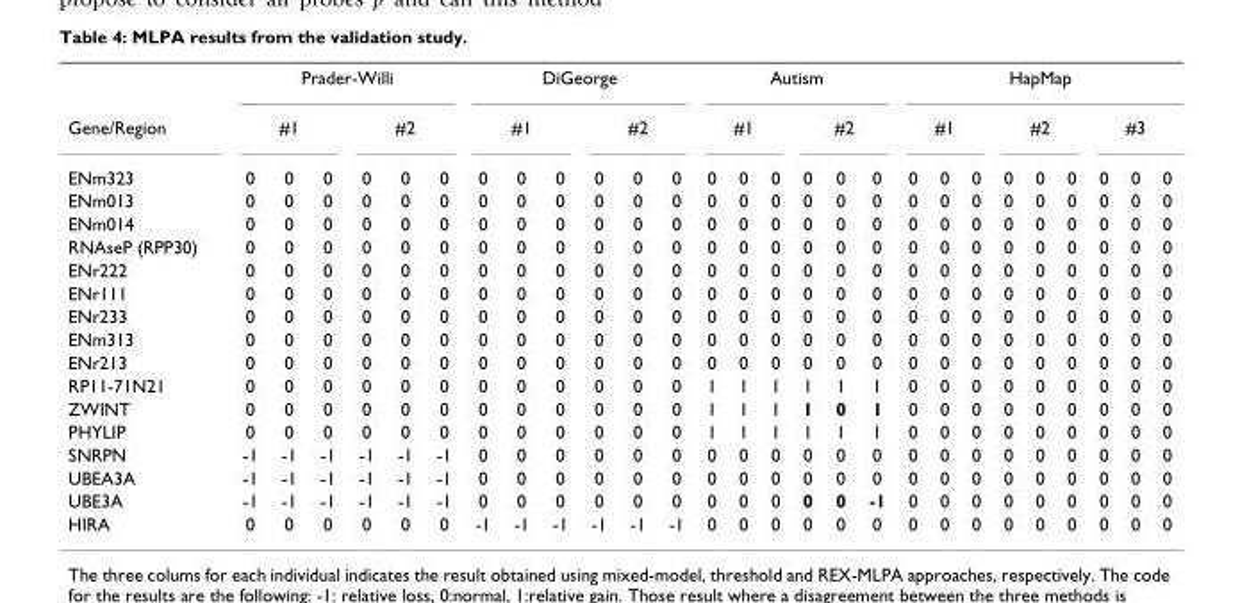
<table><thead><tr><td rowspan="3">Gene/Region ENm323</td><td colspan="6">Prader-Willi</td><td colspan="6">DiGeorge</td><td colspan="6">Autism</td><td colspan="9">HapMap</td></tr><tr><td colspan="3">#1</td><td colspan="3">#2</td><td colspan="3">#1</td><td colspan="3">#2</td><td colspan="3">#1</td><td colspan="3">#2</td><td colspan="3">#1</td><td colspan="3">#2</td><td colspan="3">#3</td></tr><tr><td>0</td><td>0</td><td>0</td><td>0</td><td>0</td><td>0</td><td>0</td><td>0</td><td>0</td><td>0</td><td>0</td><td>0</td><td>0</td><td>0</td><td>0</td><td>0</td><td>0</td><td>0</td><td>0</td><td>0</td><td>0</td><td>0</td><td>0</td><td>0</td><td>0</td><td>0</td><td>0</td></tr></thead><tbody><tr><td>ENm013</td><td>0</td><td>0</td><td>0</td><td>0</td><td>0</td><td>0</td><td>0</td><td>0</td><td>0</td><td>0</td><td>0</td><td>0</td><td>0</td><td>0</td><td>0</td><td>0</td><td>0</td><td>0</td><td>0</td><td>0</td><td>0</td><td>0</td><td>0</td><td>0</td><td>0</td><td>0</td><td>0</td></tr><tr><td>ENm014</td><td>0</td><td>0</td><td>0</td><td>0</td><td>0</td><td>0</td><td>0</td><td>0</td><td>0</td><td>0</td><td>0</td><td>0</td><td>0</td><td>0</td><td>0</td><td>0</td><td>0</td><td>0</td><td>0</td><td>0</td><td>0</td><td>0</td><td>0</td><td>0</td><td>0</td><td>0</td><td>0</td></tr><tr><td>RNAseP (RPP30)</td><td>0</td><td>0</td><td>0</td><td>0</td><td>0</td><td>0</td><td>0</td><td>0</td><td>0</td><td>0</td><td>0</td><td>0</td><td>0</td><td>0</td><td>0</td><td>0</td><td>0</td><td>0</td><td>0</td><td>0</td><td>0</td><td>0</td><td>0</td><td>0</td><td>0</td><td>0</td><td>0</td></tr><tr><td>ENr222</td><td>0</td><td>0</td><td>0</td><td>0</td><td>0</td><td>0</td><td>0</td><td>0</td><td>0</td><td>0</td><td>0</td><td>0</td><td>0</td><td>0</td><td>0</td><td>0</td><td>0</td><td>0</td><td>0</td><td>0</td><td>0</td><td>0</td><td>0</td><td>0</td><td>0</td><td>0</td><td>0</td></tr><tr><td>ENr111</td><td>0</td><td>0</td><td>0</td><td>0</td><td>0</td><td>0</td><td>0</td><td>0</td><td>0</td><td>0</td><td>0</td><td>0</td><td>0</td><td>0</td><td>0</td><td>0</td><td>0</td><td>0</td><td>0</td><td>0</td><td>0</td><td>0</td><td>0</td><td>0</td><td>0</td><td>0</td><td>0</td></tr><tr><td>ENr233</td><td>0</td><td>0</td><td>0</td><td>0</td><td>0</td><td>0</td><td>0</td><td>0</td><td>0</td><td>0</td><td>0</td><td>0</td><td>0</td><td>0</td><td>0</td><td>0</td><td>0</td><td>0</td><td>0</td><td>0</td><td>0</td><td>0</td><td>0</td><td>0</td><td>0</td><td>0</td><td>0</td></tr><tr><td>ENm313</td><td>0</td><td>0</td><td>0</td><td>0</td><td>0</td><td>0</td><td>0</td><td>0</td><td>0</td><td>0</td><td>0</td><td>0</td><td>0</td><td>0</td><td>0</td><td>0</td><td>0</td><td>0</td><td>0</td><td>0</td><td>0</td><td>0</td><td>0</td><td>0</td><td>0</td><td>0</td><td>0</td></tr><tr><td>ENr213</td><td>0</td><td>0</td><td>0</td><td>0</td><td>0</td><td>0</td><td>0</td><td>0</td><td>0</td><td>0</td><td>0</td><td>0</td><td>0</td><td>0</td><td>0</td><td>0</td><td>0</td><td>0</td><td>0</td><td>0</td><td>0</td><td>0</td><td>0</td><td>0</td><td>0</td><td>0</td><td>0</td></tr><tr><td>RP11-71N21</td><td>0</td><td>0</td><td>0</td><td>0</td><td>0</td><td>0</td><td>0</td><td>0</td><td>0</td><td>0</td><td>0</td><td>0</td><td>1</td><td>1</td><td>1</td><td>1</td><td>1</td><td>1</td><td>0</td><td>0</td><td>0</td><td>0</td><td>0</td><td>0</td><td>0</td><td>0</td><td>0</td></tr><tr><td>ZWINT</td><td>0</td><td>0</td><td>0</td><td>0</td><td>0</td><td>0</td><td>0</td><td>0</td><td>0</td><td>0</td><td>0</td><td>0</td><td>1</td><td>1</td><td>1</td><td>1</td><td>0</td><td>1</td><td>0</td><td>0</td><td>0</td><td>0</td><td>0</td><td>0</td><td>0</td><td>0</td><td>0</td></tr><tr><td>PHYLIP</td><td>0</td><td>0</td><td>0</td><td>0</td><td>0</td><td>0</td><td>0</td><td>0</td><td>0</td><td>0</td><td>0</td><td>0</td><td>1</td><td>1</td><td>1</td><td>1</td><td>1</td><td>1</td><td>0</td><td>0</td><td>0</td><td>0</td><td>0</td><td>0</td><td>0</td><td>0</td><td>0</td></tr><tr><td>SNRPN</td><td>-1</td><td>-1</td><td>-1</td><td>-1</td><td>-1</td><td>-1</td><td>0</td><td>0</td><td>0</td><td>0</td><td>0</td><td>0</td><td>0</td><td>0</td><td>0</td><td>0</td><td>0</td><td>0</td><td>0</td><td>0</td><td>0</td><td>0</td><td>0</td><td>0</td><td>0</td><td>0</td><td>0</td></tr><tr><td>UBEA3A</td><td>-1</td><td>-1</td><td>-1</td><td>-1</td><td>-1</td><td>-1</td><td>0</td><td>0</td><td>0</td><td>0</td><td>0</td><td>0</td><td>0</td><td>0</td><td>0</td><td>0</td><td>0</td><td>0</td><td>0</td><td>0</td><td>0</td><td>0</td><td>0</td><td>0</td><td>0</td><td>0</td><td>0</td></tr><tr><td>UBE3A</td><td>-1</td><td>-1</td><td>-1</td><td>-1</td><td>-1</td><td>-1</td><td>0</td><td>0</td><td>0</td><td>0</td><td>0</td><td>0</td><td>0</td><td>0</td><td>0</td><td>0</td><td>0</td><td>-1</td><td>0</td><td>0</td><td>0</td><td>0</td><td>0</td><td>0</td><td>0</td><td>0</td><td>0</td></tr><tr><td>HIRA</td><td>0</td><td>0</td><td>0</td><td>0</td><td>0</td><td>0</td><td>-1</td><td>-1</td><td>-1</td><td>-1</td><td>-1</td><td>-1</td><td>0</td><td>0</td><td>0</td><td>0</td><td>0</td><td>0</td><td>0</td><td>0</td><td>0</td><td>0</td><td>0</td><td>0</td><td>0</td><td>0</td><td>0</td></tr></tbody></table>